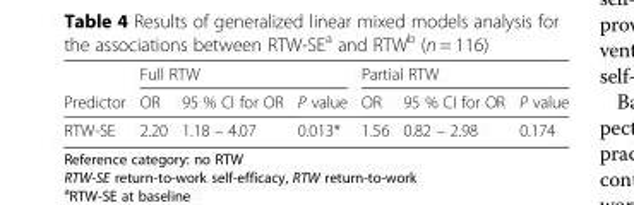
<table><thead><tr><td rowspan="2">Predictor</td><td colspan="3">Full RTW</td><td colspan="3">Partial RTW</td></tr><tr><td>OR</td><td>95 % CI for OR</td><td>P value</td><td>OR</td><td>95 % CI for OR</td><td>P value</td></tr></thead><tbody><tr><td>RTW-SE</td><td>2.20</td><td>1.18 – 4.07</td><td>0.013*</td><td>1.56</td><td>0.82 – 2.98</td><td>0.174</td></tr></tbody></table>